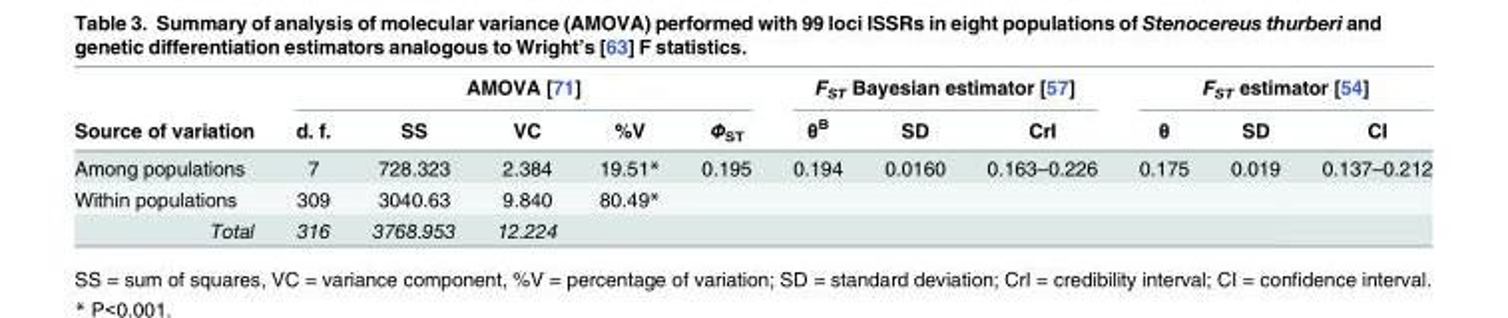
<table><thead><tr><td rowspan="2">Source of variation</td><td colspan="5">AMOVA [71]</td><td colspan="3">F<sub>ST</sub> Bayesian estimator [57]</td><td colspan="3">F<sub>ST</sub> estimator [54]</td></tr><tr><td>d. f.</td><td>SS</td><td>VC</td><td>%V</td><td>Ф<sub>ST</sub></td><td>θ<sup>B</sup></td><td>SD</td><td>CrI</td><td>θ</td><td>SD</td><td>CI</td></tr></thead><tbody><tr><td>Among populations</td><td>7</td><td>728.323</td><td>2.384</td><td>19.51*</td><td>0.195</td><td>0.194</td><td>0.0160</td><td>0.163–0.226</td><td>0.175</td><td>0.019</td><td>0.137–0.212</td></tr><tr><td>Within populations</td><td>309</td><td>3040.63</td><td>9.840</td><td>80.49*</td><td></td><td></td><td></td><td></td><td></td><td></td><td></td></tr><tr><td>Total</td><td>316</td><td>3768.953</td><td>12.224</td><td></td><td></td><td></td><td></td><td></td><td></td><td></td><td></td></tr></tbody></table>